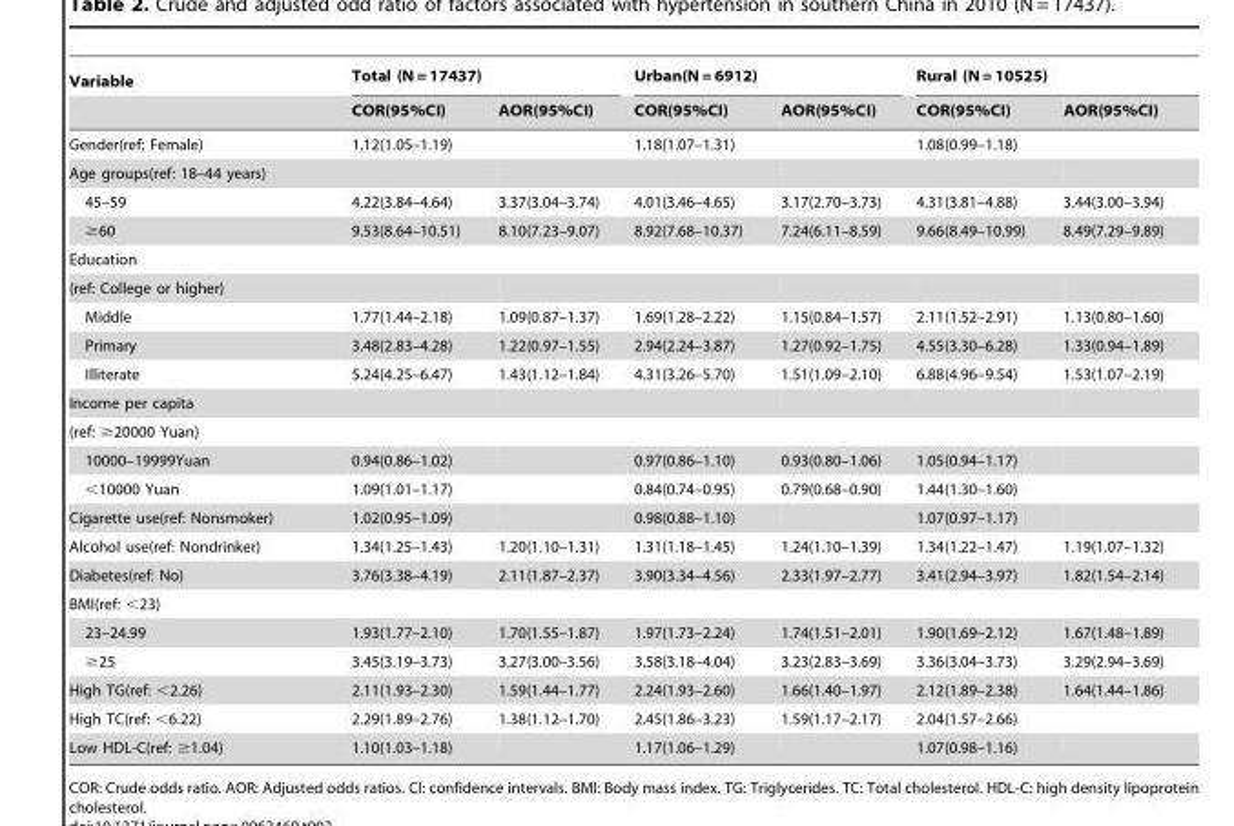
<table><thead><tr><td rowspan="2">Variable</td><td colspan="2">Total (N = 17437)</td><td colspan="2">Urban(N = 6912)</td><td colspan="2">Rural (N = 10525)</td></tr><tr><td>COR(95%CI)</td><td>AOR(95%CI)</td><td>COR(95%CI)</td><td>AOR(95%CI)</td><td>COR(95%CI)</td><td>AOR(95%CI)</td></tr></thead><tbody><tr><td>Gender(ref: Female)</td><td>1.12(1.05–1.19)</td><td></td><td>1.18(1.07–1.31)</td><td></td><td>1.08(0.99–1.18)</td><td></td></tr><tr><td colspan="7">Age groups(ref: 18–44 years)</td></tr><tr><td>45–59</td><td>4.22(3.84–4.64)</td><td>3.37(3.04–3.74)</td><td>4.01(3.46–4.65)</td><td>3.17(2.70–3.73)</td><td>4.31(3.81–4.88)</td><td>3.44(3.00–3.94)</td></tr><tr><td>≥60</td><td>9.53(8.64–10.51)</td><td>8.10(7.23–9.07)</td><td>8.92(7.68–10.37)</td><td>7.24(6.11–8.59)</td><td>9.66(8.49–10.99)</td><td>8.49(7.29–9.89)</td></tr><tr><td colspan="7">Education</td></tr><tr><td colspan="7">(ref: College or higher)</td></tr><tr><td>Middle</td><td>1.77(1.44–2.18)</td><td>1.09(0.87–1.37)</td><td>1.69(1.28–2.22)</td><td>1.15(0.84–1.57)</td><td>2.11(1.52–2.91)</td><td>1.13(0.80–1.60)</td></tr><tr><td>Primary</td><td>3.48(2.83–4.28)</td><td>1.22(0.97–1.55)</td><td>2.94(2.24–3.87)</td><td>1.27(0.92–1.75)</td><td>4.55(3.30–6.28)</td><td>1.33(0.94–1.89)</td></tr><tr><td>Illiterate</td><td>5.24(4.25–6.47)</td><td>1.43(1.12–1.84)</td><td>4.31(3.26–5.70)</td><td>1.51(1.09–2.10)</td><td>6.88(4.96–9.54)</td><td>1.53(1.07–2.19)</td></tr><tr><td colspan="7">Income per capita</td></tr><tr><td colspan="7">(ref: ≥20000 Yuan)</td></tr><tr><td>10000–19999Yuan</td><td>0.94(0.86–1.02)</td><td></td><td>0.97(0.86–1.10)</td><td>0.93(0.80–1.06)</td><td>1.05(0.94–1.17)</td><td></td></tr><tr><td>&lt;10000 Yuan</td><td>1.09(1.01–1.17)</td><td></td><td>0.84(0.74–0.95)</td><td>0.79(0.68–0.90)</td><td>1.44(1.30–1.60)</td><td></td></tr><tr><td>Cigarette use(ref: Nonsmoker)</td><td>1.02(0.95–1.09)</td><td></td><td>0.98(0.88–1.10)</td><td></td><td>1.07(0.97–1.17)</td><td></td></tr><tr><td>Alcohol use(ref: Nondrinker)</td><td>1.34(1.25–1.43)</td><td>1.20(1.10–1.31)</td><td>1.31(1.18–1.45)</td><td>1.24(1.10–1.39)</td><td>1.34(1.22–1.47)</td><td>1.19(1.07–1.32)</td></tr><tr><td>Diabetes(ref: No)</td><td>3.76(3.38–4.19)</td><td>2.11(1.87–2.37)</td><td>3.90(3.34–4.56)</td><td>2.33(1.97–2.77)</td><td>3.41(2.94–3.97)</td><td>1.82(1.54–2.14)</td></tr><tr><td colspan="7">BMI(ref: &lt;23)</td></tr><tr><td>23–24.99</td><td>1.93(1.77–2.10)</td><td>1.70(1.55–1.87)</td><td>1.97(1.73–2.24)</td><td>1.74(1.51–2.01)</td><td>1.90(1.69–2.12)</td><td>1.67(1.48–1.89)</td></tr><tr><td>≥25</td><td>3.45(3.19–3.73)</td><td>3.27(3.00–3.56)</td><td>3.58(3.18–4.04)</td><td>3.23(2.83–3.69)</td><td>3.36(3.04–3.73)</td><td>3.29(2.94–3.69)</td></tr><tr><td>High TG(ref: &lt;2.26)</td><td>2.11(1.93–2.30)</td><td>1.59(1.44–1.77)</td><td>2.24(1.93–2.60)</td><td>1.66(1.40–1.97)</td><td>2.12(1.89–2.38)</td><td>1.64(1.44–1.86)</td></tr><tr><td>High TC(ref: &lt;6.22)</td><td>2.29(1.89–2.76)</td><td>1.38(1.12–1.70)</td><td>2.45(1.86–3.23)</td><td>1.59(1.17–2.17)</td><td>2.04(1.57–2.66)</td><td></td></tr><tr><td>Low HDL-C(ref: ≥1.04)</td><td>1.10(1.03–1.18)</td><td></td><td>1.17(1.06–1.29)</td><td></td><td>1.07(0.98–1.16)</td><td></td></tr></tbody></table>